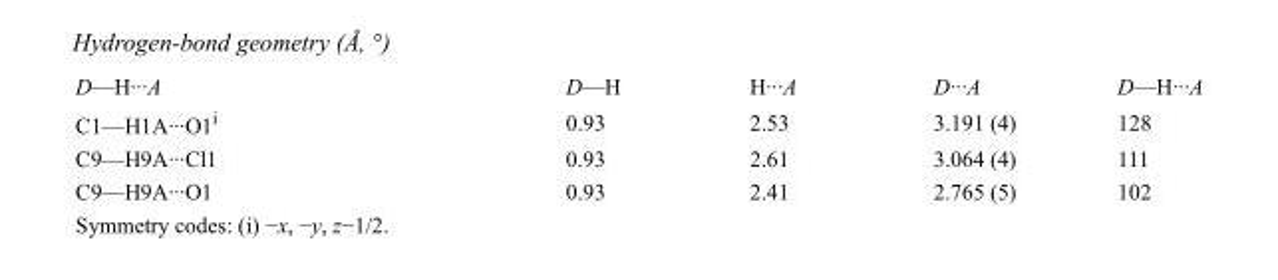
<table><tbody><tr><td>D—H···A</td><td>D—H</td><td>H···A</td><td>D···A</td><td>D—H···A</td></tr><tr><td>C1—H1A···O1<sup>i</sup></td><td>0.93</td><td>2.53</td><td>3.191 (4)</td><td>128</td></tr><tr><td>C9—H9A···Cl1</td><td>0.93</td><td>2.61</td><td>3.064 (4)</td><td>111</td></tr><tr><td>C9—H9A···O1</td><td>0.93</td><td>2.41</td><td>2.765 (5)</td><td>102</td></tr></tbody></table>